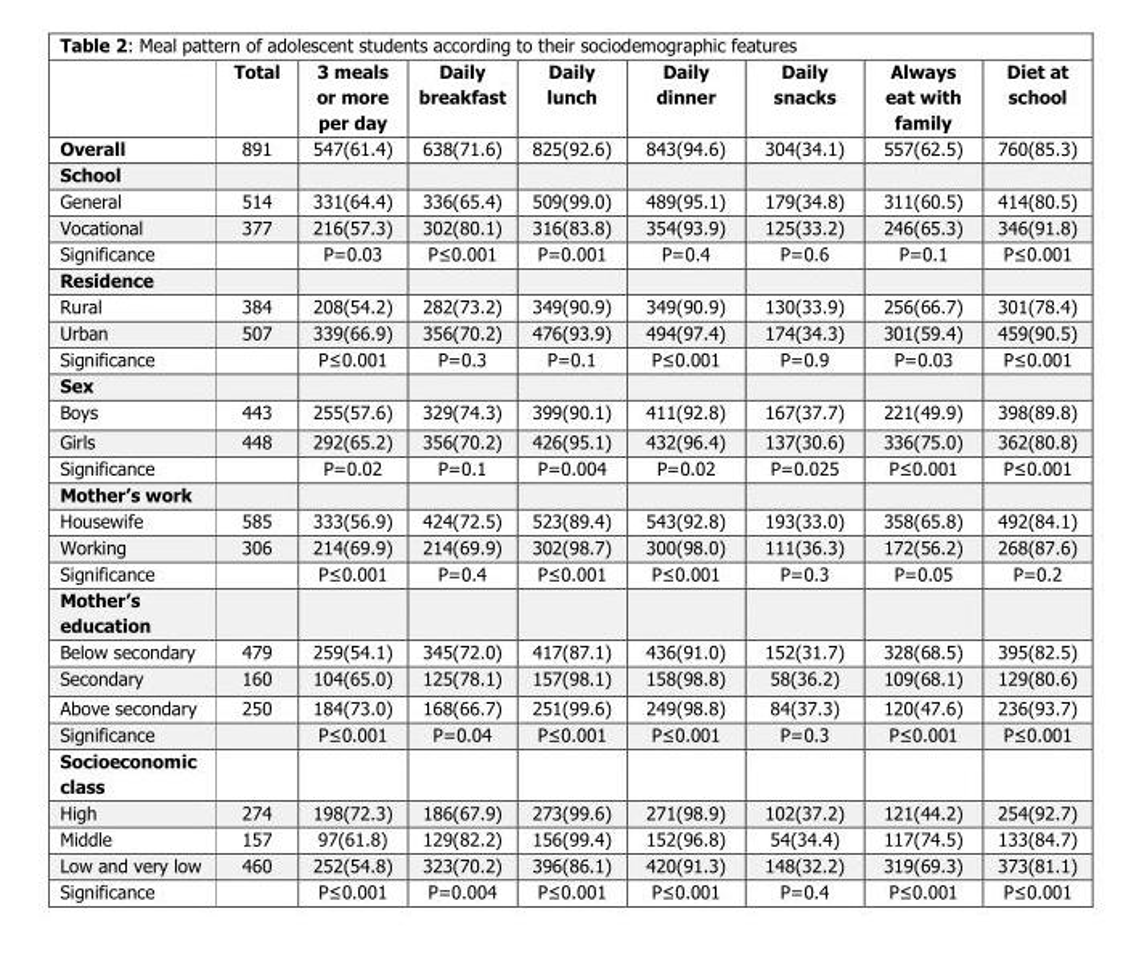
<table><thead><tr><td></td><td>Total</td><td>3 meals or more per day</td><td>Daily breakfast</td><td>Daily lunch</td><td>Daily dinner</td><td>Daily snacks</td><td>Always eat with family</td><td>Diet at school</td></tr></thead><tbody><tr><td>Overall</td><td>891</td><td>547(61.4)</td><td>638(71.6)</td><td>825(92.6)</td><td>843(94.6)</td><td>304(34.1)</td><td>557(62.5)</td><td>760(85.3)</td></tr><tr><td colspan="9">School</td></tr><tr><td>General</td><td>514</td><td>331(64.4)</td><td>336(65.4)</td><td>509(99.0)</td><td>489(95.1)</td><td>179(34.8)</td><td>311(60.5)</td><td>414(80.5)</td></tr><tr><td>Vocational</td><td>377</td><td>216(57.3)</td><td>302(80.1)</td><td>316(83.8)</td><td>354(93.9)</td><td>125(33.2)</td><td>246(65.3)</td><td>346(91.8)</td></tr><tr><td>Significance</td><td></td><td>P=0.03</td><td>P≤0.001</td><td>P=0.001</td><td>P=0.4</td><td>P=0.6</td><td>P=0.1</td><td>P≤0.001</td></tr><tr><td colspan="9">Residence</td></tr><tr><td>Rural</td><td>384</td><td>208(54.2)</td><td>282(73.2)</td><td>349(90.9)</td><td>349(90.9)</td><td>130(33.9)</td><td>256(66.7)</td><td>301(78.4)</td></tr><tr><td>Urban</td><td>507</td><td>339(66.9)</td><td>356(70.2)</td><td>476(93.9)</td><td>494(97.4)</td><td>174(34.3)</td><td>301(59.4)</td><td>459(90.5)</td></tr><tr><td>Significance</td><td></td><td>P≤0.001</td><td>P=0.3</td><td>P=0.1</td><td>P≤0.001</td><td>P=0.9</td><td>P=0.03</td><td>P≤0.001</td></tr><tr><td colspan="9">Sex</td></tr><tr><td>Boys</td><td>443</td><td>255(57.6)</td><td>329(74.3)</td><td>399(90.1)</td><td>411(92.8)</td><td>167(37.7)</td><td>221(49.9)</td><td>398(89.8)</td></tr><tr><td>Girls</td><td>448</td><td>292(65.2)</td><td>356(70.2)</td><td>426(95.1)</td><td>432(96.4)</td><td>137(30.6)</td><td>336(75.0)</td><td>362(80.8)</td></tr><tr><td>Significance</td><td></td><td>P=0.02</td><td>P=0.1</td><td>P=0.004</td><td>P=0.02</td><td>P=0.025</td><td>P≤0.001</td><td>P≤0.001</td></tr><tr><td colspan="9">Mother’s work</td></tr><tr><td>Housewife</td><td>585</td><td>333(56.9)</td><td>424(72.5)</td><td>523(89.4)</td><td>543(92.8)</td><td>193(33.0)</td><td>358(65.8)</td><td>492(84.1)</td></tr><tr><td>Working</td><td>306</td><td>214(69.9)</td><td>214(69.9)</td><td>302(98.7)</td><td>300(98.0)</td><td>111(36.3)</td><td>172(56.2)</td><td>268(87.6)</td></tr><tr><td>Significance</td><td></td><td>P≤0.001</td><td>P=0.4</td><td>P≤0.001</td><td>P≤0.001</td><td>P=0.3</td><td>P=0.05</td><td>P=0.2</td></tr><tr><td colspan="9">Mother’s education</td></tr><tr><td>Below secondary</td><td>479</td><td>259(54.1)</td><td>345(72.0)</td><td>417(87.1)</td><td>436(91.0)</td><td>152(31.7)</td><td>328(68.5)</td><td>395(82.5)</td></tr><tr><td>Secondary</td><td>160</td><td>104(65.0)</td><td>125(78.1)</td><td>157(98.1)</td><td>158(98.8)</td><td>58(36.2)</td><td>109(68.1)</td><td>129(80.6)</td></tr><tr><td>Above secondary</td><td>250</td><td>184(73.0)</td><td>168(66.7)</td><td>251(99.6)</td><td>249(98.8)</td><td>84(37.3)</td><td>120(47.6)</td><td>236(93.7)</td></tr><tr><td>Significance</td><td></td><td>P≤0.001</td><td>P=0.04</td><td>P≤0.001</td><td>P≤0.001</td><td>P=0.3</td><td>P≤0.001</td><td>P≤0.001</td></tr><tr><td colspan="9">Socioeconomic class</td></tr><tr><td>High</td><td>274</td><td>198(72.3)</td><td>186(67.9)</td><td>273(99.6)</td><td>271(98.9)</td><td>102(37.2)</td><td>121(44.2)</td><td>254(92.7)</td></tr><tr><td>Middle</td><td>157</td><td>97(61.8)</td><td>129(82.2)</td><td>156(99.4)</td><td>152(96.8)</td><td>54(34.4)</td><td>117(74.5)</td><td>133(84.7)</td></tr><tr><td>Low and very low</td><td>460</td><td>252(54.8)</td><td>323(70.2)</td><td>396(86.1)</td><td>420(91.3)</td><td>148(32.2)</td><td>319(69.3)</td><td>373(81.1)</td></tr><tr><td>Significance</td><td></td><td>P≤0.001</td><td>P=0.004</td><td>P≤0.001</td><td>P≤0.001</td><td>P=0.4</td><td>P≤0.001</td><td>P≤0.001</td></tr></tbody></table>